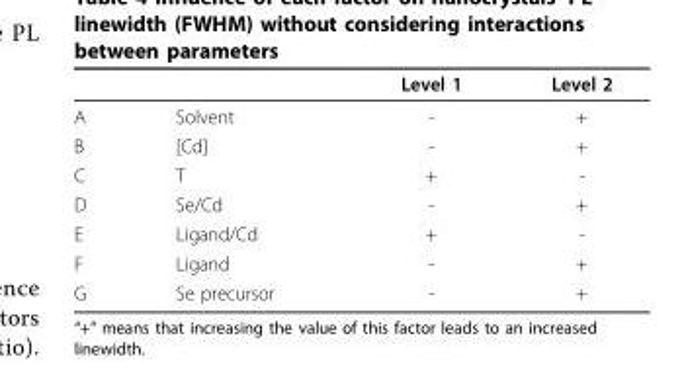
<table><thead><tr><td></td><td></td><td>Level 1</td><td>Level 2</td></tr></thead><tbody><tr><td>A</td><td>Solvent</td><td>-</td><td>+</td></tr><tr><td>B</td><td>[Cd]</td><td>-</td><td>+</td></tr><tr><td>C</td><td>T</td><td>+</td><td>-</td></tr><tr><td>D</td><td>Se/Cd</td><td>-</td><td>+</td></tr><tr><td>E</td><td>Ligand/Cd</td><td>+</td><td>-</td></tr><tr><td>F</td><td>Ligand</td><td>-</td><td>+</td></tr><tr><td>G</td><td>Se precursor</td><td>-</td><td>+</td></tr></tbody></table>